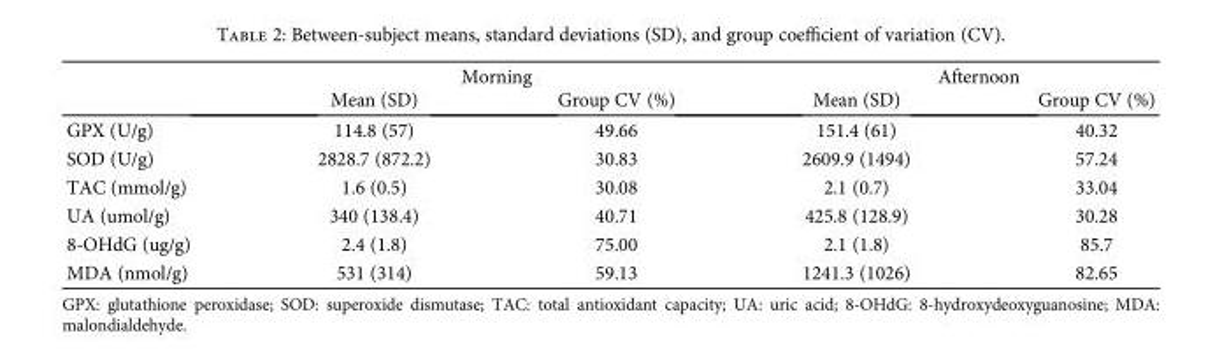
<table><thead><tr><td rowspan="2"></td><td colspan="2">Morning</td><td colspan="2">Afternoon</td></tr><tr><td>Mean (SD)</td><td>Group CV (%)</td><td>Mean (SD)</td><td>Group CV (%)</td></tr></thead><tbody><tr><td>GPX (U/g)</td><td>114.8 (57)</td><td>49.66</td><td>151.4 (61)</td><td>40.32</td></tr><tr><td>SOD (U/g)</td><td>2828.7 (872.2)</td><td>30.83</td><td>2609.9 (1494)</td><td>57.24</td></tr><tr><td>TAC (mmol/g)</td><td>1.6 (0.5)</td><td>30.08</td><td>2.1 (0.7)</td><td>33.04</td></tr><tr><td>UA (umol/g)</td><td>340 (138.4)</td><td>40.71</td><td>425.8 (128.9)</td><td>30.28</td></tr><tr><td>8-OHdG (ug/g)</td><td>2.4 (1.8)</td><td>75.00</td><td>2.1 (1.8)</td><td>85.7</td></tr><tr><td>MDA (nmol/g)</td><td>531 (314)</td><td>59.13</td><td>1241.3 (1026)</td><td>82.65</td></tr></tbody></table>